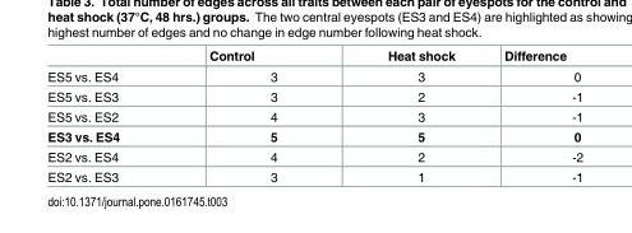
<table><thead><tr><td></td><td>Control</td><td>Heat shock</td><td>Difference</td></tr></thead><tbody><tr><td>ES5 vs. ES4</td><td>3</td><td>3</td><td>0</td></tr><tr><td>ES5 vs. ES3</td><td>3</td><td>2</td><td>-1</td></tr><tr><td>ES5 vs. ES2</td><td>4</td><td>3</td><td>-1</td></tr><tr><td>ES3 vs. ES4</td><td>5</td><td>5</td><td>0</td></tr><tr><td>ES2 vs. ES4</td><td>4</td><td>2</td><td>-2</td></tr><tr><td>ES2 vs. ES3</td><td>3</td><td>1</td><td>-1</td></tr></tbody></table>